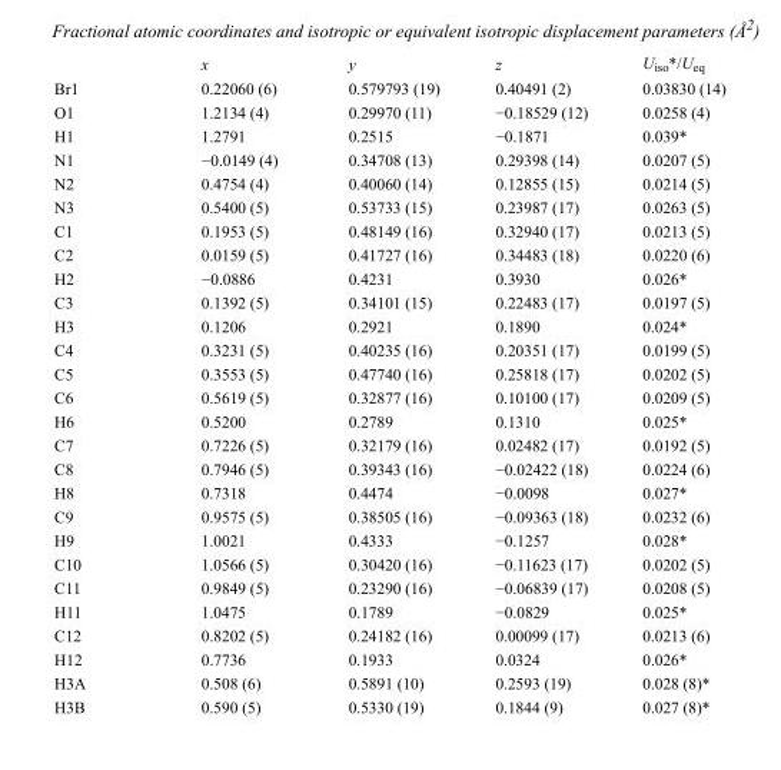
<table><thead><tr><td></td><td>x</td><td>y</td><td>z</td><td>U<sub>iso</sub>*/U<sub>eq</sub></td></tr></thead><tbody><tr><td>Br1</td><td>0.22060 (6)</td><td>0.579793 (19)</td><td>0.40491 (2)</td><td>0.03830 (14)</td></tr><tr><td>O1</td><td>1.2134 (4)</td><td>0.29970 (11)</td><td>−0.18529 (12)</td><td>0.0258 (4)</td></tr><tr><td>H1</td><td>1.2791</td><td>0.2515</td><td>−0.1871</td><td>0.039*</td></tr><tr><td>N1</td><td>−0.0149 (4)</td><td>0.34708 (13)</td><td>0.29398 (14)</td><td>0.0207 (5)</td></tr><tr><td>N2</td><td>0.4754 (4)</td><td>0.40060 (14)</td><td>0.12855 (15)</td><td>0.0214 (5)</td></tr><tr><td>N3</td><td>0.5400 (5)</td><td>0.53733 (15)</td><td>0.23987 (17)</td><td>0.0263 (5)</td></tr><tr><td>C1</td><td>0.1953 (5)</td><td>0.48149 (16)</td><td>0.32940 (17)</td><td>0.0213 (5)</td></tr><tr><td>C2</td><td>0.0159 (5)</td><td>0.41727 (16)</td><td>0.34483 (18)</td><td>0.0220 (6)</td></tr><tr><td>H2</td><td>−0.0886</td><td>0.4231</td><td>0.3930</td><td>0.026*</td></tr><tr><td>C3</td><td>0.1392 (5)</td><td>0.34101 (15)</td><td>0.22483 (17)</td><td>0.0197 (5)</td></tr><tr><td>H3</td><td>0.1206</td><td>0.2921</td><td>0.1890</td><td>0.024*</td></tr><tr><td>C4</td><td>0.3231 (5)</td><td>0.40235 (16)</td><td>0.20351 (17)</td><td>0.0199 (5)</td></tr><tr><td>C5</td><td>0.3553 (5)</td><td>0.47740 (16)</td><td>0.25818 (17)</td><td>0.0202 (5)</td></tr><tr><td>C6</td><td>0.5619 (5)</td><td>0.32877 (16)</td><td>0.10100 (17)</td><td>0.0209 (5)</td></tr><tr><td>H6</td><td>0.5200</td><td>0.2789</td><td>0.1310</td><td>0.025*</td></tr><tr><td>C7</td><td>0.7226 (5)</td><td>0.32179 (16)</td><td>0.02482 (17)</td><td>0.0192 (5)</td></tr><tr><td>C8</td><td>0.7946 (5)</td><td>0.39343 (16)</td><td>−0.02422 (18)</td><td>0.0224 (6)</td></tr><tr><td>H8</td><td>0.7318</td><td>0.4474</td><td>−0.0098</td><td>0.027*</td></tr><tr><td>C9</td><td>0.9575 (5)</td><td>0.38505 (16)</td><td>−0.09363 (18)</td><td>0.0232 (6)</td></tr><tr><td>H9</td><td>1.0021</td><td>0.4333</td><td>−0.1257</td><td>0.028*</td></tr><tr><td>C10</td><td>1.0566 (5)</td><td>0.30420 (16)</td><td>−0.11623 (17)</td><td>0.0202 (5)</td></tr><tr><td>C11</td><td>0.9849 (5)</td><td>0.23290 (16)</td><td>−0.06839 (17)</td><td>0.0208 (5)</td></tr><tr><td>H11</td><td>1.0475</td><td>0.1789</td><td>−0.0829</td><td>0.025*</td></tr><tr><td>C12</td><td>0.8202 (5)</td><td>0.24182 (16)</td><td>0.00099 (17)</td><td>0.0213 (6)</td></tr><tr><td>H12</td><td>0.7736</td><td>0.1933</td><td>0.0324</td><td>0.026*</td></tr><tr><td>H3A</td><td>0.508 (6)</td><td>0.5891 (10)</td><td>0.2593 (19)</td><td>0.028 (8)*</td></tr><tr><td>H3B</td><td>0.590 (5)</td><td>0.5330 (19)</td><td>0.1844 (9)</td><td>0.027 (8)*</td></tr></tbody></table>